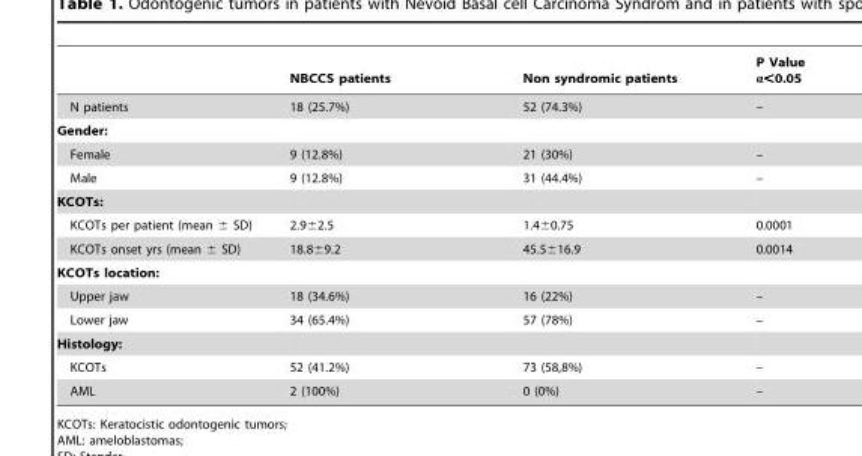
<table><thead><tr><td></td><td>NBCCS patients</td><td>Non syndromic patients</td><td>P Value α&lt;0.05</td></tr></thead><tbody><tr><td>N patients</td><td>18 (25.7%)</td><td>52 (74.3%)</td><td>–</td></tr><tr><td colspan="4">Gender:</td></tr><tr><td>Female</td><td>9 (12.8%)</td><td>21 (30%)</td><td>–</td></tr><tr><td>Male</td><td>9 (12.8%)</td><td>31 (44.4%)</td><td>–</td></tr><tr><td colspan="4">KCOTs:</td></tr><tr><td>KCOTs per patient (mean ± SD)</td><td>2.9±2.5</td><td>1.4±0.75</td><td>0.0001</td></tr><tr><td>KCOTs onset yrs (mean ± SD)</td><td>18.8±9.2</td><td>45.5±16.9</td><td>0.0014</td></tr><tr><td colspan="4">KCOTs location:</td></tr><tr><td>Upper jaw</td><td>18 (34.6%)</td><td>16 (22%)</td><td>–</td></tr><tr><td>Lower jaw</td><td>34 (65.4%)</td><td>57 (78%)</td><td>–</td></tr><tr><td colspan="4">Histology:</td></tr><tr><td>KCOTs</td><td>52 (41.2%)</td><td>73 (58,8%)</td><td>–</td></tr><tr><td>AML</td><td>2 (100%)</td><td>0 (0%)</td><td>–</td></tr></tbody></table>